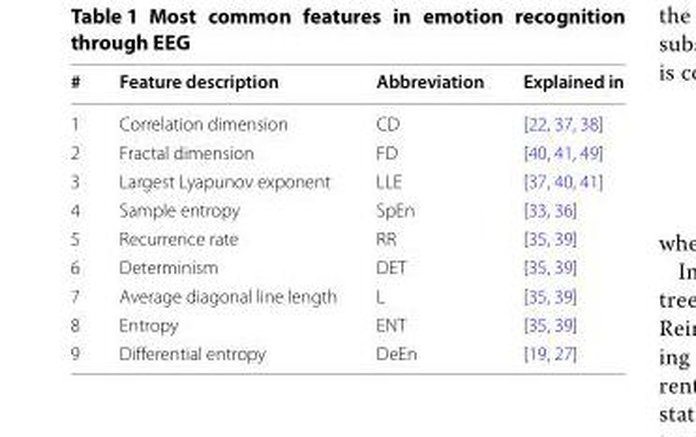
<table><thead><tr><td>#</td><td>Feature description</td><td>Abbreviation</td><td>Explained in</td></tr></thead><tbody><tr><td>1</td><td>Correlation dimension</td><td>CD</td><td>[22, 37, 38]</td></tr><tr><td>2</td><td>Fractal dimension</td><td>FD</td><td>[40, 41, 49]</td></tr><tr><td>3</td><td>Largest Lyapunov exponent</td><td>LLE</td><td>[37, 40, 41]</td></tr><tr><td>4</td><td>Sample entropy</td><td>SpEn</td><td>[33, 36]</td></tr><tr><td>5</td><td>Recurrence rate</td><td>RR</td><td>[35, 39]</td></tr><tr><td>6</td><td>Determinism</td><td>DET</td><td>[35, 39]</td></tr><tr><td>7</td><td>Average diagonal line length</td><td>L</td><td>[35, 39]</td></tr><tr><td>8</td><td>Entropy</td><td>ENT</td><td>[35, 39]</td></tr><tr><td>9</td><td>Differential entropy</td><td>DeEn</td><td>[19, 27]</td></tr></tbody></table>